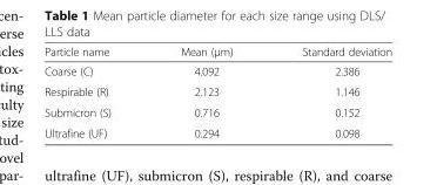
<table><thead><tr><td>Particle name</td><td>Mean (μm)</td><td>Standard deviation</td></tr></thead><tbody><tr><td>Coarse (C)</td><td>4.092</td><td>2.386</td></tr><tr><td>Respirable (R)</td><td>2.123</td><td>1.146</td></tr><tr><td>Submicron (S)</td><td>0.716</td><td>0.152</td></tr><tr><td>Ultrafine (UF)</td><td>0.294</td><td>0.098</td></tr></tbody></table>